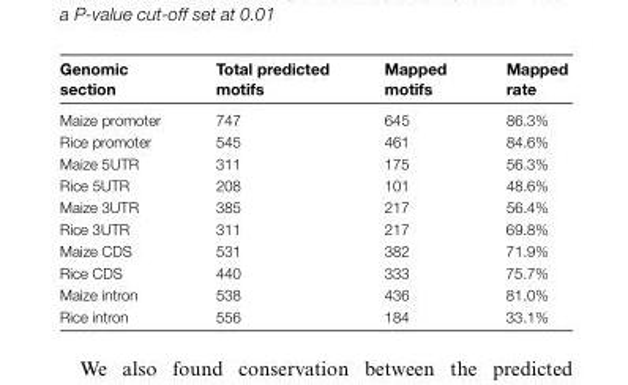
<table><thead><tr><td>Genomic section</td><td>Total predicted motifs</td><td>Mapped motifs</td><td>Mapped rate</td></tr></thead><tbody><tr><td>Maize promoter</td><td>747</td><td>645</td><td>86.3%</td></tr><tr><td>Rice promoter</td><td>545</td><td>461</td><td>84.6%</td></tr><tr><td>Maize 5UTR</td><td>311</td><td>175</td><td>56.3%</td></tr><tr><td>Rice 5UTR</td><td>208</td><td>101</td><td>48.6%</td></tr><tr><td>Maize 3UTR</td><td>385</td><td>217</td><td>56.4%</td></tr><tr><td>Rice 3UTR</td><td>311</td><td>217</td><td>69.8%</td></tr><tr><td>Maize CDS</td><td>531</td><td>382</td><td>71.9%</td></tr><tr><td>Rice CDS</td><td>440</td><td>333</td><td>75.7%</td></tr><tr><td>Maize intron</td><td>538</td><td>436</td><td>81.0%</td></tr><tr><td>Rice intron</td><td>556</td><td>184</td><td>33.1%</td></tr></tbody></table>